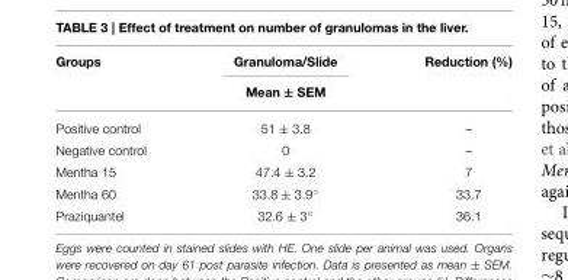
<table><thead><tr><td rowspan="2">Groups</td><td rowspan="2">Granuloma/Slide Mean ± SEM</td><td rowspan="2">Reduction (%)</td></tr><tr></tr></thead><tbody><tr><td>Positive control</td><td>51 ± 3.8</td><td>–</td></tr><tr><td>Negative control</td><td>0</td><td>–</td></tr><tr><td>Mentha 15</td><td>47.4 ± 3.2</td><td>7</td></tr><tr><td>Mentha 60</td><td>33.8 ± 3.9◦</td><td>33.7</td></tr><tr><td>Praziquantel</td><td>32.6 ± 3◦</td><td>36.1</td></tr></tbody></table>